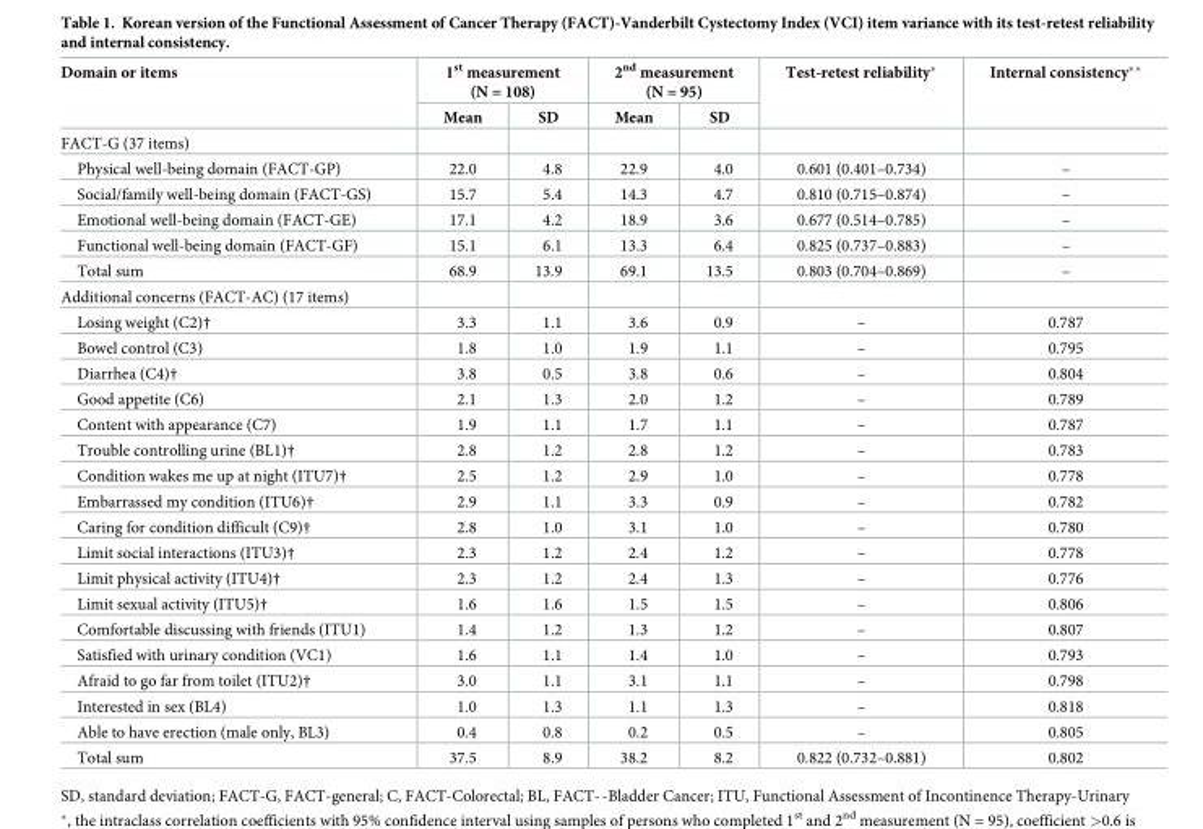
<table><thead><tr><td rowspan="2">Domain or items</td><td colspan="2">1<sup>st</sup> measurement (N = 108)</td><td colspan="2">2<sup>nd</sup> measurement (N = 95)</td><td rowspan="2">Test-retest reliability*</td><td rowspan="2">Internal consistency**</td></tr><tr><td>Mean</td><td>SD</td><td>Mean</td><td>SD</td></tr></thead><tbody><tr><td colspan="7">FACT-G (37 items)</td></tr><tr><td>Physical well-being domain (FACT-GP)</td><td>22.0</td><td>4.8</td><td>22.9</td><td>4.0</td><td>0.601 (0.401–0.734)</td><td>–</td></tr><tr><td>Social/family well-being domain (FACT-GS)</td><td>15.7</td><td>5.4</td><td>14.3</td><td>4.7</td><td>0.810 (0.715–0.874)</td><td>–</td></tr><tr><td>Emotional well-being domain (FACT-GE)</td><td>17.1</td><td>4.2</td><td>18.9</td><td>3.6</td><td>0.677 (0.514–0.785)</td><td>–</td></tr><tr><td>Functional well-being domain (FACT-GF)</td><td>15.1</td><td>6.1</td><td>13.3</td><td>6.4</td><td>0.825 (0.737–0.883)</td><td>–</td></tr><tr><td>Total sum</td><td>68.9</td><td>13.9</td><td>69.1</td><td>13.5</td><td>0.803 (0.704–0.869)</td><td>–</td></tr><tr><td colspan="7">Additional concerns (FACT-AC) (17 items)</td></tr><tr><td>Losing weight (C2)†</td><td>3.3</td><td>1.1</td><td>3.6</td><td>0.9</td><td>–</td><td>0.787</td></tr><tr><td>Bowel control (C3)</td><td>1.8</td><td>1.0</td><td>1.9</td><td>1.1</td><td>–</td><td>0.795</td></tr><tr><td>Diarrhea (C4)†</td><td>3.8</td><td>0.5</td><td>3.8</td><td>0.6</td><td>–</td><td>0.804</td></tr><tr><td>Good appetite (C6)</td><td>2.1</td><td>1.3</td><td>2.0</td><td>1.2</td><td>–</td><td>0.789</td></tr><tr><td>Content with appearance (C7)</td><td>1.9</td><td>1.1</td><td>1.7</td><td>1.1</td><td>–</td><td>0.787</td></tr><tr><td>Trouble controlling urine (BL1)†</td><td>2.8</td><td>1.2</td><td>2.8</td><td>1.2</td><td>–</td><td>0.783</td></tr><tr><td>Condition wakes me up at night (ITU7)†</td><td>2.5</td><td>1.2</td><td>2.9</td><td>1.0</td><td>–</td><td>0.778</td></tr><tr><td>Embarrassed my condition (ITU6)†</td><td>2.9</td><td>1.1</td><td>3.3</td><td>0.9</td><td>–</td><td>0.782</td></tr><tr><td>Caring for condition difficult (C9)†</td><td>2.8</td><td>1.0</td><td>3.1</td><td>1.0</td><td>–</td><td>0.780</td></tr><tr><td>Limit social interactions (ITU3)†</td><td>2.3</td><td>1.2</td><td>2.4</td><td>1.2</td><td>–</td><td>0.778</td></tr><tr><td>Limit physical activity (ITU4)†</td><td>2.3</td><td>1.2</td><td>2.4</td><td>1.3</td><td>–</td><td>0.776</td></tr><tr><td>Limit sexual activity (ITU5)†</td><td>1.6</td><td>1.6</td><td>1.5</td><td>1.5</td><td>–</td><td>0.806</td></tr><tr><td>Comfortable discussing with friends (ITU1)</td><td>1.4</td><td>1.2</td><td>1.3</td><td>1.2</td><td>–</td><td>0.807</td></tr><tr><td>Satisfied with urinary condition (VC1)</td><td>1.6</td><td>1.1</td><td>1.4</td><td>1.0</td><td>–</td><td>0.793</td></tr><tr><td>Afraid to go far from toilet (ITU2)†</td><td>3.0</td><td>1.1</td><td>3.1</td><td>1.1</td><td>–</td><td>0.798</td></tr><tr><td>Interested in sex (BL4)</td><td>1.0</td><td>1.3</td><td>1.1</td><td>1.3</td><td>–</td><td>0.818</td></tr><tr><td>Able to have erection (male only, BL3)</td><td>0.4</td><td>0.8</td><td>0.2</td><td>0.5</td><td>–</td><td>0.805</td></tr><tr><td>Total sum</td><td>37.5</td><td>8.9</td><td>38.2</td><td>8.2</td><td>0.822 (0.732–0.881)</td><td>0.802</td></tr></tbody></table>